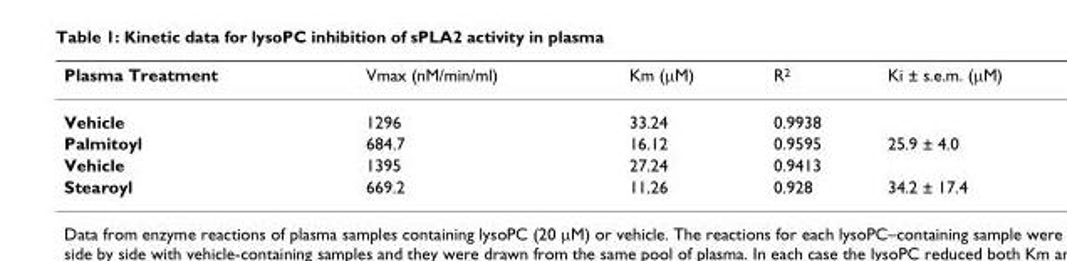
<table><thead><tr><td>Plasma Treatment</td><td>Vmax (nM/min/ml)</td><td>Km (μM)</td><td>R<sup>2</sup></td><td>Ki ± s.e.m. (μM)</td></tr></thead><tbody><tr><td>Vehicle</td><td>1296</td><td>33.24</td><td>0.9938</td><td></td></tr><tr><td>Palmitoyl</td><td>684.7</td><td>16.12</td><td>0.9595</td><td>25.9 ± 4.0</td></tr><tr><td>Vehicle</td><td>1395</td><td>27.24</td><td>0.9413</td><td></td></tr><tr><td>Stearoyl</td><td>669.2</td><td>11.26</td><td>0.928</td><td>34.2 ± 17.4</td></tr></tbody></table>